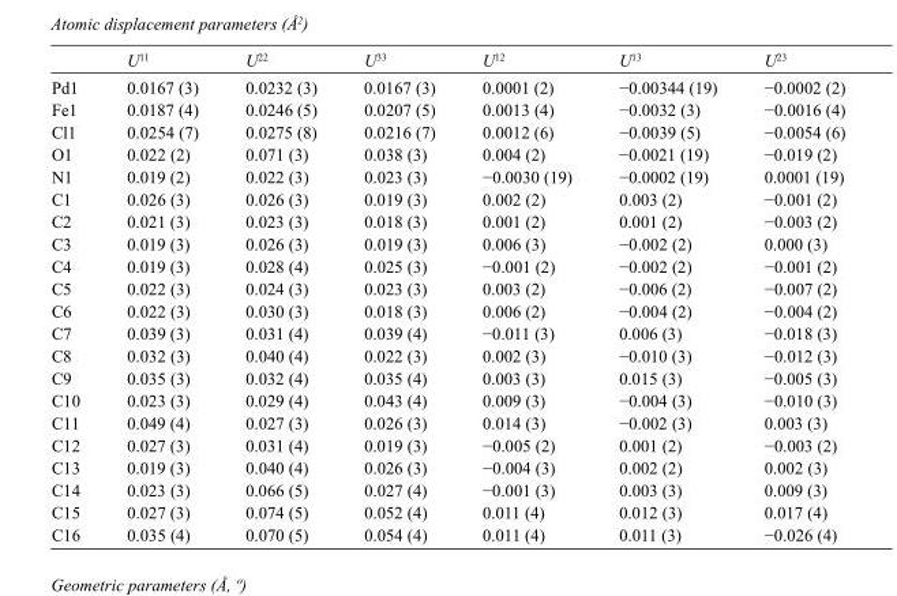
<table><thead><tr><td></td><td>U<sup>11</sup></td><td>U<sup>22</sup></td><td>U<sup>33</sup></td><td>U<sup>12</sup></td><td>U<sup>13</sup></td><td>U<sup>23</sup></td></tr></thead><tbody><tr><td>Pd1</td><td>0.0167 (3)</td><td>0.0232 (3)</td><td>0.0167 (3)</td><td>0.0001 (2)</td><td>−0.00344 (19)</td><td>−0.0002 (2)</td></tr><tr><td>Fe1</td><td>0.0187 (4)</td><td>0.0246 (5)</td><td>0.0207 (5)</td><td>0.0013 (4)</td><td>−0.0032 (3)</td><td>−0.0016 (4)</td></tr><tr><td>Cl1</td><td>0.0254 (7)</td><td>0.0275 (8)</td><td>0.0216 (7)</td><td>0.0012 (6)</td><td>−0.0039 (5)</td><td>−0.0054 (6)</td></tr><tr><td>O1</td><td>0.022 (2)</td><td>0.071 (3)</td><td>0.038 (3)</td><td>0.004 (2)</td><td>−0.0021 (19)</td><td>−0.019 (2)</td></tr><tr><td>N1</td><td>0.019 (2)</td><td>0.022 (3)</td><td>0.023 (3)</td><td>−0.0030 (19)</td><td>−0.0002 (19)</td><td>0.0001 (19)</td></tr><tr><td>C1</td><td>0.026 (3)</td><td>0.026 (3)</td><td>0.019 (3)</td><td>0.002 (2)</td><td>0.003 (2)</td><td>−0.001 (2)</td></tr><tr><td>C2</td><td>0.021 (3)</td><td>0.023 (3)</td><td>0.018 (3)</td><td>0.001 (2)</td><td>0.001 (2)</td><td>−0.003 (2)</td></tr><tr><td>C3</td><td>0.019 (3)</td><td>0.026 (3)</td><td>0.019 (3)</td><td>0.006 (3)</td><td>−0.002 (2)</td><td>0.000 (3)</td></tr><tr><td>C4</td><td>0.019 (3)</td><td>0.028 (4)</td><td>0.025 (3)</td><td>−0.001 (2)</td><td>−0.002 (2)</td><td>−0.001 (2)</td></tr><tr><td>C5</td><td>0.022 (3)</td><td>0.024 (3)</td><td>0.023 (3)</td><td>0.003 (2)</td><td>−0.006 (2)</td><td>−0.007 (2)</td></tr><tr><td>C6</td><td>0.022 (3)</td><td>0.030 (3)</td><td>0.018 (3)</td><td>0.006 (2)</td><td>−0.004 (2)</td><td>−0.004 (2)</td></tr><tr><td>C7</td><td>0.039 (3)</td><td>0.031 (4)</td><td>0.039 (4)</td><td>−0.011 (3)</td><td>0.006 (3)</td><td>−0.018 (3)</td></tr><tr><td>C8</td><td>0.032 (3)</td><td>0.040 (4)</td><td>0.022 (3)</td><td>0.002 (3)</td><td>−0.010 (3)</td><td>−0.012 (3)</td></tr><tr><td>C9</td><td>0.035 (3)</td><td>0.032 (4)</td><td>0.035 (4)</td><td>0.003 (3)</td><td>0.015 (3)</td><td>−0.005 (3)</td></tr><tr><td>C10</td><td>0.023 (3)</td><td>0.029 (4)</td><td>0.043 (4)</td><td>0.009 (3)</td><td>−0.004 (3)</td><td>−0.010 (3)</td></tr><tr><td>C11</td><td>0.049 (4)</td><td>0.027 (3)</td><td>0.026 (3)</td><td>0.014 (3)</td><td>−0.002 (3)</td><td>0.003 (3)</td></tr><tr><td>C12</td><td>0.027 (3)</td><td>0.031 (4)</td><td>0.019 (3)</td><td>−0.005 (2)</td><td>0.001 (2)</td><td>−0.003 (2)</td></tr><tr><td>C13</td><td>0.019 (3)</td><td>0.040 (4)</td><td>0.026 (3)</td><td>−0.004 (3)</td><td>0.002 (2)</td><td>0.002 (3)</td></tr><tr><td>C14</td><td>0.023 (3)</td><td>0.066 (5)</td><td>0.027 (4)</td><td>−0.001 (3)</td><td>0.003 (3)</td><td>0.009 (3)</td></tr><tr><td>C15</td><td>0.027 (3)</td><td>0.074 (5)</td><td>0.052 (4)</td><td>0.011 (4)</td><td>0.012 (3)</td><td>0.017 (4)</td></tr><tr><td>C16</td><td>0.035 (4)</td><td>0.070 (5)</td><td>0.054 (4)</td><td>0.011 (4)</td><td>0.011 (3)</td><td>−0.026 (4)</td></tr></tbody></table>